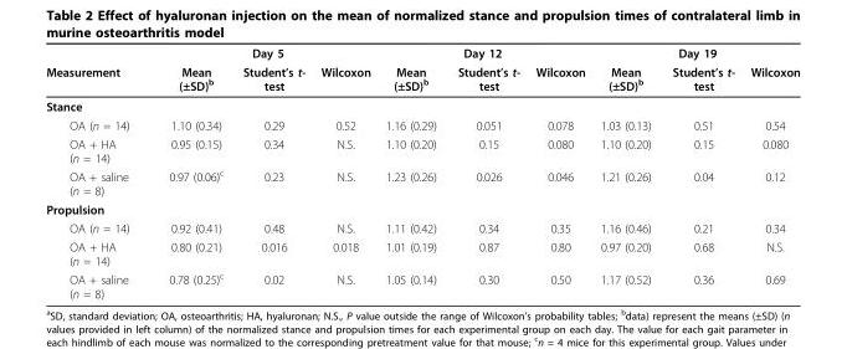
<table><thead><tr><td rowspan="2">Measurement</td><td colspan="3">Day 5</td><td colspan="3">Day 12</td><td colspan="3">Day 19</td></tr><tr><td>Mean (±SD)<sup>b</sup></td><td>Student’s t- test</td><td>Wilcoxon</td><td>Mean (±SD)<sup>b</sup></td><td>Student’s t- test</td><td>Wilcoxon</td><td>Mean (±SD)<sup>b</sup></td><td>Student’s t- test</td><td>Wilcoxon</td></tr></thead><tbody><tr><td colspan="10">Stance</td></tr><tr><td>OA (n = 14)</td><td>1.10 (0.34)</td><td>0.29</td><td>0.52</td><td>1.16 (0.29)</td><td>0.051</td><td>0.078</td><td>1.03 (0.13)</td><td>0.51</td><td>0.54</td></tr><tr><td>OA + HA (n = 14)</td><td>0.95 (0.15)</td><td>0.34</td><td>N.S.</td><td>1.10 (0.20)</td><td>0.15</td><td>0.080</td><td>1.10 (0.20)</td><td>0.15</td><td>0.080</td></tr><tr><td>OA + saline (n = 8)</td><td>0.97 (0.06)<sup>c</sup></td><td>0.23</td><td>N.S.</td><td>1.23 (0.26)</td><td>0.026</td><td>0.046</td><td>1.21 (0.26)</td><td>0.04</td><td>0.12</td></tr><tr><td colspan="10">Propulsion</td></tr><tr><td>OA (n = 14)</td><td>0.92 (0.41)</td><td>0.48</td><td>N.S.</td><td>1.11 (0.42)</td><td>0.34</td><td>0.35</td><td>1.16 (0.46)</td><td>0.21</td><td>0.34</td></tr><tr><td>OA + HA (n = 14)</td><td>0.80 (0.21)</td><td>0.016</td><td>0.018</td><td>1.01 (0.19)</td><td>0.87</td><td>0.80</td><td>0.97 (0.20)</td><td>0.68</td><td>N.S.</td></tr><tr><td>OA + saline (n = 8)</td><td>0.78 (0.25)<sup>c</sup></td><td>0.02</td><td>N.S.</td><td>1.05 (0.14)</td><td>0.30</td><td>0.50</td><td>1.17 (0.52)</td><td>0.36</td><td>0.69</td></tr></tbody></table>